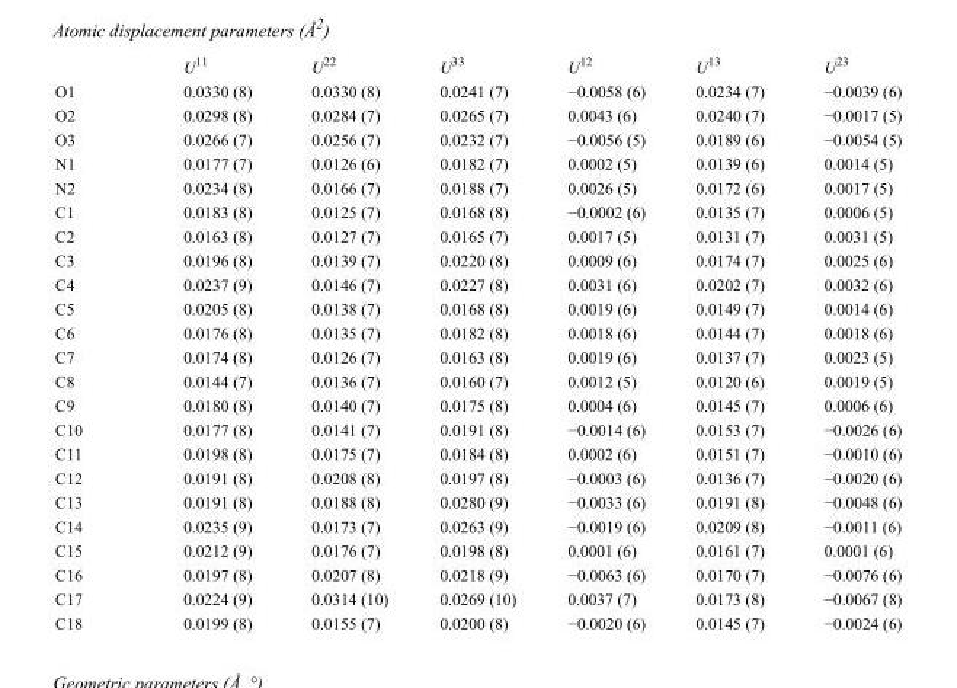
<table><thead><tr><td></td><td>U<sup>11</sup></td><td>U<sup>22</sup></td><td>U<sup>33</sup></td><td>U<sup>12</sup></td><td>U<sup>13</sup></td><td>U<sup>23</sup></td></tr></thead><tbody><tr><td>O1</td><td>0.0330 (8)</td><td>0.0330 (8)</td><td>0.0241 (7)</td><td>−0.0058 (6)</td><td>0.0234 (7)</td><td>−0.0039 (6)</td></tr><tr><td>O2</td><td>0.0298 (8)</td><td>0.0284 (7)</td><td>0.0265 (7)</td><td>0.0043 (6)</td><td>0.0240 (7)</td><td>−0.0017 (5)</td></tr><tr><td>O3</td><td>0.0266 (7)</td><td>0.0256 (7)</td><td>0.0232 (7)</td><td>−0.0056 (5)</td><td>0.0189 (6)</td><td>−0.0054 (5)</td></tr><tr><td>N1</td><td>0.0177 (7)</td><td>0.0126 (6)</td><td>0.0182 (7)</td><td>0.0002 (5)</td><td>0.0139 (6)</td><td>0.0014 (5)</td></tr><tr><td>N2</td><td>0.0234 (8)</td><td>0.0166 (7)</td><td>0.0188 (7)</td><td>0.0026 (5)</td><td>0.0172 (6)</td><td>0.0017 (5)</td></tr><tr><td>C1</td><td>0.0183 (8)</td><td>0.0125 (7)</td><td>0.0168 (8)</td><td>−0.0002 (6)</td><td>0.0135 (7)</td><td>0.0006 (5)</td></tr><tr><td>C2</td><td>0.0163 (8)</td><td>0.0127 (7)</td><td>0.0165 (7)</td><td>0.0017 (5)</td><td>0.0131 (7)</td><td>0.0031 (5)</td></tr><tr><td>C3</td><td>0.0196 (8)</td><td>0.0139 (7)</td><td>0.0220 (8)</td><td>0.0009 (6)</td><td>0.0174 (7)</td><td>0.0025 (6)</td></tr><tr><td>C4</td><td>0.0237 (9)</td><td>0.0146 (7)</td><td>0.0227 (8)</td><td>0.0031 (6)</td><td>0.0202 (7)</td><td>0.0032 (6)</td></tr><tr><td>C5</td><td>0.0205 (8)</td><td>0.0138 (7)</td><td>0.0168 (8)</td><td>0.0019 (6)</td><td>0.0149 (7)</td><td>0.0014 (6)</td></tr><tr><td>C6</td><td>0.0176 (8)</td><td>0.0135 (7)</td><td>0.0182 (8)</td><td>0.0018 (6)</td><td>0.0144 (7)</td><td>0.0018 (6)</td></tr><tr><td>C7</td><td>0.0174 (8)</td><td>0.0126 (7)</td><td>0.0163 (8)</td><td>0.0019 (6)</td><td>0.0137 (7)</td><td>0.0023 (5)</td></tr><tr><td>C8</td><td>0.0144 (7)</td><td>0.0136 (7)</td><td>0.0160 (7)</td><td>0.0012 (5)</td><td>0.0120 (6)</td><td>0.0019 (5)</td></tr><tr><td>C9</td><td>0.0180 (8)</td><td>0.0140 (7)</td><td>0.0175 (8)</td><td>0.0004 (6)</td><td>0.0145 (7)</td><td>0.0006 (6)</td></tr><tr><td>C10</td><td>0.0177 (8)</td><td>0.0141 (7)</td><td>0.0191 (8)</td><td>−0.0014 (6)</td><td>0.0153 (7)</td><td>−0.0026 (6)</td></tr><tr><td>C11</td><td>0.0198 (8)</td><td>0.0175 (7)</td><td>0.0184 (8)</td><td>0.0002 (6)</td><td>0.0151 (7)</td><td>−0.0010 (6)</td></tr><tr><td>C12</td><td>0.0191 (8)</td><td>0.0208 (8)</td><td>0.0197 (8)</td><td>−0.0003 (6)</td><td>0.0136 (7)</td><td>−0.0020 (6)</td></tr><tr><td>C13</td><td>0.0191 (8)</td><td>0.0188 (8)</td><td>0.0280 (9)</td><td>−0.0033 (6)</td><td>0.0191 (8)</td><td>−0.0048 (6)</td></tr><tr><td>C14</td><td>0.0235 (9)</td><td>0.0173 (7)</td><td>0.0263 (9)</td><td>−0.0019 (6)</td><td>0.0209 (8)</td><td>−0.0011 (6)</td></tr><tr><td>C15</td><td>0.0212 (9)</td><td>0.0176 (7)</td><td>0.0198 (8)</td><td>0.0001 (6)</td><td>0.0161 (7)</td><td>0.0001 (6)</td></tr><tr><td>C16</td><td>0.0197 (8)</td><td>0.0207 (8)</td><td>0.0218 (9)</td><td>−0.0063 (6)</td><td>0.0170 (7)</td><td>−0.0076 (6)</td></tr><tr><td>C17</td><td>0.0224 (9)</td><td>0.0314 (10)</td><td>0.0269 (10)</td><td>0.0037 (7)</td><td>0.0173 (8)</td><td>−0.0067 (8)</td></tr><tr><td>C18</td><td>0.0199 (8)</td><td>0.0155 (7)</td><td>0.0200 (8)</td><td>−0.0020 (6)</td><td>0.0145 (7)</td><td>−0.0024 (6)</td></tr></tbody></table>